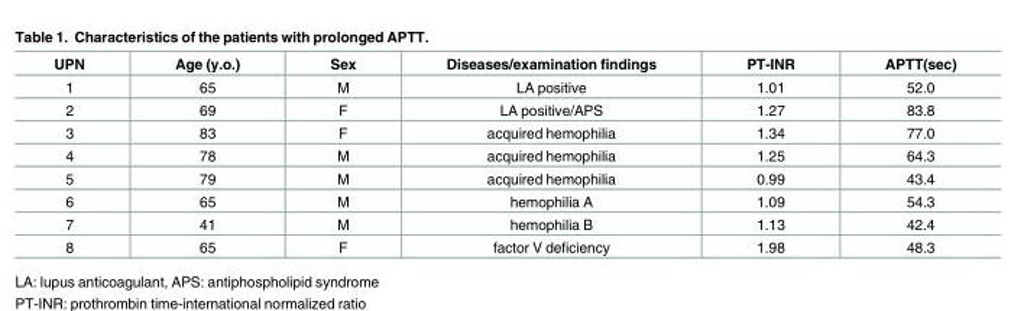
<table><thead><tr><td>UPN</td><td>Age (y.o.)</td><td>Sex</td><td>Diseases/examination findings</td><td>PT-INR</td><td>APTT(sec)</td></tr></thead><tbody><tr><td>1</td><td>65</td><td>M</td><td>LA positive</td><td>1.01</td><td>52.0</td></tr><tr><td>2</td><td>69</td><td>F</td><td>LA positive/APS</td><td>1.27</td><td>83.8</td></tr><tr><td>3</td><td>83</td><td>F</td><td>acquired hemophilia</td><td>1.34</td><td>77.0</td></tr><tr><td>4</td><td>78</td><td>M</td><td>acquired hemophilia</td><td>1.25</td><td>64.3</td></tr><tr><td>5</td><td>79</td><td>M</td><td>acquired hemophilia</td><td>0.99</td><td>43.4</td></tr><tr><td>6</td><td>65</td><td>M</td><td>hemophilia A</td><td>1.09</td><td>54.3</td></tr><tr><td>7</td><td>41</td><td>M</td><td>hemophilia B</td><td>1.13</td><td>42.4</td></tr><tr><td>8</td><td>65</td><td>F</td><td>factor V deficiency</td><td>1.98</td><td>48.3</td></tr></tbody></table>